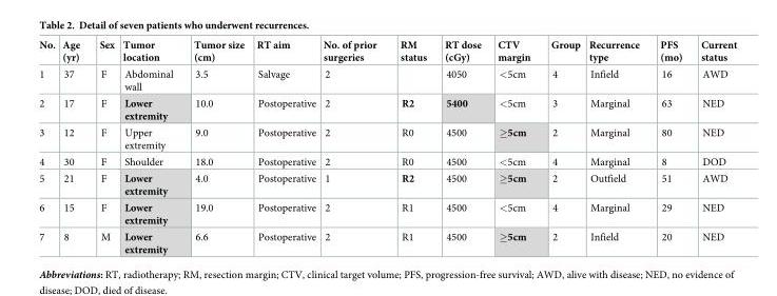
<table><thead><tr><td>No.</td><td>Age (yr)</td><td>Sex</td><td>Tumor location</td><td>Tumor size (cm)</td><td>RT aim</td><td>No. of prior surgeries</td><td>RM status</td><td>RT dose (cGy)</td><td>CTV margin</td><td>Group</td><td>Recurrence type</td><td>PFS (mo)</td><td>Current status</td></tr></thead><tbody><tr><td>1</td><td>37</td><td>F</td><td>Abdominal wall</td><td>3.5</td><td>Salvage</td><td>2</td><td></td><td>4050</td><td>&lt;5cm</td><td>4</td><td>Infield</td><td>16</td><td>AWD</td></tr><tr><td>2</td><td>17</td><td>F</td><td>Lower extremity</td><td>10.0</td><td>Postoperative</td><td>2</td><td>R2</td><td>5400</td><td>&lt;5cm</td><td>3</td><td>Marginal</td><td>63</td><td>NED</td></tr><tr><td>3</td><td>12</td><td>F</td><td>Upper extremity</td><td>9.0</td><td>Postoperative</td><td>2</td><td>R0</td><td>4500</td><td>≥5cm</td><td>2</td><td>Marginal</td><td>80</td><td>NED</td></tr><tr><td>4</td><td>30</td><td>F</td><td>Shoulder</td><td>18.0</td><td>Postoperative</td><td>2</td><td>R0</td><td>4500</td><td>&lt;5cm</td><td>4</td><td>Marginal</td><td>8</td><td>DOD</td></tr><tr><td>5</td><td>21</td><td>F</td><td>Lower extremity</td><td>4.0</td><td>Postoperative</td><td>1</td><td>R2</td><td>4500</td><td>≥5cm</td><td>2</td><td>Outfield</td><td>51</td><td>AWD</td></tr><tr><td>6</td><td>15</td><td>F</td><td>Lower extremity</td><td>19.0</td><td>Postoperative</td><td>2</td><td>R1</td><td>4500</td><td>&lt;5cm</td><td>4</td><td>Marginal</td><td>29</td><td>NED</td></tr><tr><td>7</td><td>8</td><td>M</td><td>Lower extremity</td><td>6.6</td><td>Postoperative</td><td>2</td><td>R1</td><td>4500</td><td>≥5cm</td><td>2</td><td>Infield</td><td>20</td><td>NED</td></tr></tbody></table>